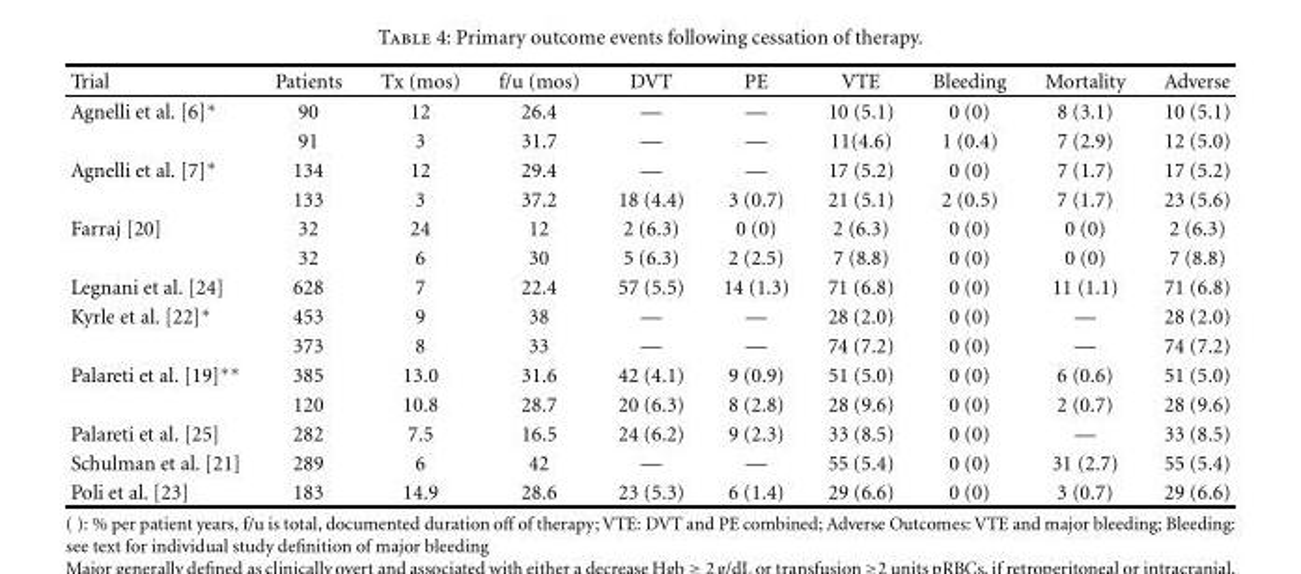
<table><thead><tr><td>Trial</td><td>Patients</td><td>Tx (mos)</td><td>f/u (mos)</td><td>DVT</td><td>PE</td><td>VTE</td><td>Bleeding</td><td>Mortality</td><td>Adverse</td></tr></thead><tbody><tr><td rowspan="2">Agnelli et al. [6]∗</td><td>90</td><td>12</td><td>26.4</td><td>—</td><td>—</td><td>10 (5.1)</td><td>0 (0)</td><td>8 (3.1)</td><td>10 (5.1)</td></tr><tr><td>91</td><td>3</td><td>31.7</td><td>—</td><td>—</td><td>11(4.6)</td><td>1 (0.4)</td><td>7 (2.9)</td><td>12 (5.0)</td></tr><tr><td rowspan="2">Agnelli et al. [7]∗</td><td>134</td><td>12</td><td>29.4</td><td>—</td><td>—</td><td>17 (5.2)</td><td>0 (0)</td><td>7 (1.7)</td><td>17 (5.2)</td></tr><tr><td>133</td><td>3</td><td>37.2</td><td>18 (4.4)</td><td>3 (0.7)</td><td>21 (5.1)</td><td>2 (0.5)</td><td>7 (1.7)</td><td>23 (5.6)</td></tr><tr><td rowspan="2">Farraj [20]</td><td>32</td><td>24</td><td>12</td><td>2 (6.3)</td><td>0 (0)</td><td>2 (6.3)</td><td>0 (0)</td><td>0 (0)</td><td>2 (6.3)</td></tr><tr><td>32</td><td>6</td><td>30</td><td>5 (6.3)</td><td>2 (2.5)</td><td>7 (8.8)</td><td>0 (0)</td><td>0 (0)</td><td>7 (8.8)</td></tr><tr><td>Legnani et al. [24]</td><td>628</td><td>7</td><td>22.4</td><td>57 (5.5)</td><td>14 (1.3)</td><td>71 (6.8)</td><td>0 (0)</td><td>11 (1.1)</td><td>71 (6.8)</td></tr><tr><td rowspan="2">Kyrle et al. [22]∗</td><td>453</td><td>9</td><td>38</td><td>—</td><td>—</td><td>28 (2.0)</td><td>0 (0)</td><td>—</td><td>28 (2.0)</td></tr><tr><td>373</td><td>8</td><td>33</td><td>—</td><td>—</td><td>74 (7.2)</td><td>0 (0)</td><td>—</td><td>74 (7.2)</td></tr><tr><td rowspan="2">Palareti et al. [19]∗∗</td><td>385</td><td>13.0</td><td>31.6</td><td>42 (4.1)</td><td>9 (0.9)</td><td>51 (5.0)</td><td>0 (0)</td><td>6 (0.6)</td><td>51 (5.0)</td></tr><tr><td>120</td><td>10.8</td><td>28.7</td><td>20 (6.3)</td><td>8 (2.8)</td><td>28 (9.6)</td><td>0 (0)</td><td>2 (0.7)</td><td>28 (9.6)</td></tr><tr><td>Palareti et al. [25]</td><td>282</td><td>7.5</td><td>16.5</td><td>24 (6.2)</td><td>9 (2.3)</td><td>33 (8.5)</td><td>0 (0)</td><td>—</td><td>33 (8.5)</td></tr><tr><td>Schulman et al. [21]</td><td>289</td><td>6</td><td>42</td><td>—</td><td>—</td><td>55 (5.4)</td><td>0 (0)</td><td>31 (2.7)</td><td>55 (5.4)</td></tr><tr><td>Poli et al. [23]</td><td>183</td><td>14.9</td><td>28.6</td><td>23 (5.3)</td><td>6 (1.4)</td><td>29 (6.6)</td><td>0 (0)</td><td>3 (0.7)</td><td>29 (6.6)</td></tr></tbody></table>